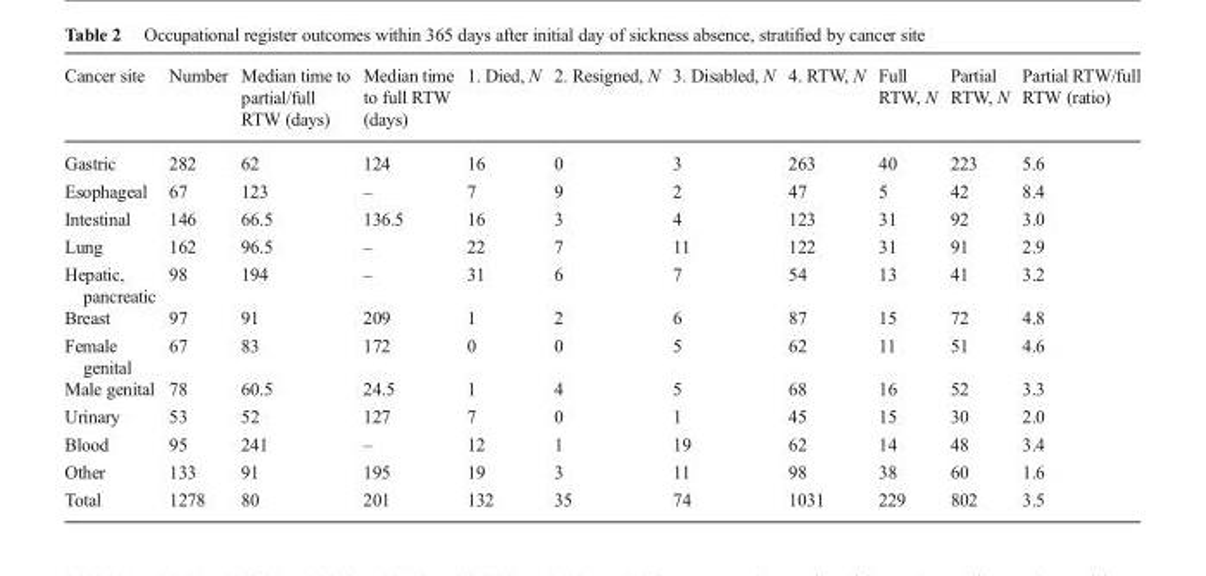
<table><thead><tr><td>Cancer site</td><td>Number</td><td>Median time to partial/full RTW (days)</td><td>Median time to full RTW (days)</td><td>1. Died, N</td><td>2. Resigned, N</td><td>3. Disabled, N</td><td>4. RTW, N</td><td>Full RTW, N</td><td>Partial RTW, N</td><td>Partial RTW/full RTW (ratio)</td></tr></thead><tbody><tr><td>Gastric</td><td>282</td><td>62</td><td>124</td><td>16</td><td>0</td><td>3</td><td>263</td><td>40</td><td>223</td><td>5.6</td></tr><tr><td>Esophageal</td><td>67</td><td>123</td><td>–</td><td>7</td><td>9</td><td>2</td><td>47</td><td>5</td><td>42</td><td>8.4</td></tr><tr><td>Intestinal</td><td>146</td><td>66.5</td><td>136.5</td><td>16</td><td>3</td><td>4</td><td>123</td><td>31</td><td>92</td><td>3.0</td></tr><tr><td>Lung</td><td>162</td><td>96.5</td><td>–</td><td>22</td><td>7</td><td>11</td><td>122</td><td>31</td><td>91</td><td>2.9</td></tr><tr><td>Hepatic, pancreatic</td><td>98</td><td>194</td><td>–</td><td>31</td><td>6</td><td>7</td><td>54</td><td>13</td><td>41</td><td>3.2</td></tr><tr><td>Breast</td><td>97</td><td>91</td><td>209</td><td>1</td><td>2</td><td>6</td><td>87</td><td>15</td><td>72</td><td>4.8</td></tr><tr><td>Female genital</td><td>67</td><td>83</td><td>172</td><td>0</td><td>0</td><td>5</td><td>62</td><td>11</td><td>51</td><td>4.6</td></tr><tr><td>Male genital</td><td>78</td><td>60.5</td><td>24.5</td><td>1</td><td>4</td><td>5</td><td>68</td><td>16</td><td>52</td><td>3.3</td></tr><tr><td>Urinary</td><td>53</td><td>52</td><td>127</td><td>7</td><td>0</td><td>1</td><td>45</td><td>15</td><td>30</td><td>2.0</td></tr><tr><td>Blood</td><td>95</td><td>241</td><td>–</td><td>12</td><td>1</td><td>19</td><td>62</td><td>14</td><td>48</td><td>3.4</td></tr><tr><td>Other</td><td>133</td><td>91</td><td>195</td><td>19</td><td>3</td><td>11</td><td>98</td><td>38</td><td>60</td><td>1.6</td></tr><tr><td>Total</td><td>1278</td><td>80</td><td>201</td><td>132</td><td>35</td><td>74</td><td>1031</td><td>229</td><td>802</td><td>3.5</td></tr></tbody></table>